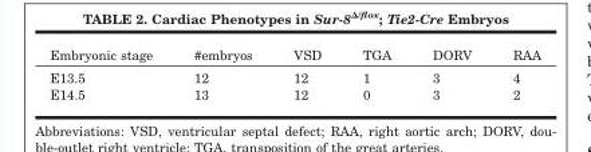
<table><thead><tr><td>Embryonic stage</td><td>#embryos</td><td>VSD</td><td>TGA</td><td>DORV</td><td>RAA</td></tr></thead><tbody><tr><td>E13.5</td><td>12</td><td>12</td><td>1</td><td>3</td><td>4</td></tr><tr><td>E14.5</td><td>13</td><td>12</td><td>0</td><td>3</td><td>2</td></tr></tbody></table>